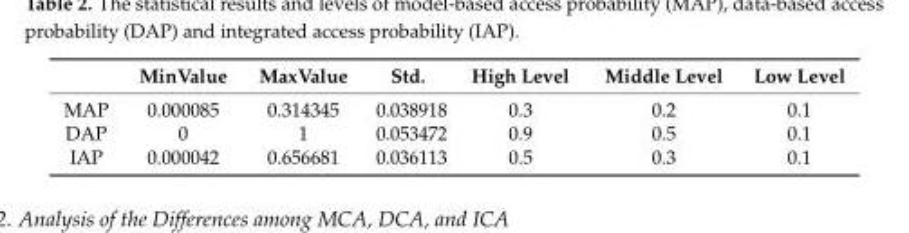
<table><thead><tr><td></td><td>MinValue</td><td>MaxValue</td><td>Std.</td><td>High Level</td><td>Middle Level</td><td>Low Level</td></tr></thead><tbody><tr><td>MAP</td><td>0.000085</td><td>0.314345</td><td>0.038918</td><td>0.3</td><td>0.2</td><td>0.1</td></tr><tr><td>DAP</td><td>0</td><td>1</td><td>0.053472</td><td>0.9</td><td>0.5</td><td>0.1</td></tr><tr><td>IAP</td><td>0.000042</td><td>0.656681</td><td>0.036113</td><td>0.5</td><td>0.3</td><td>0.1</td></tr></tbody></table>